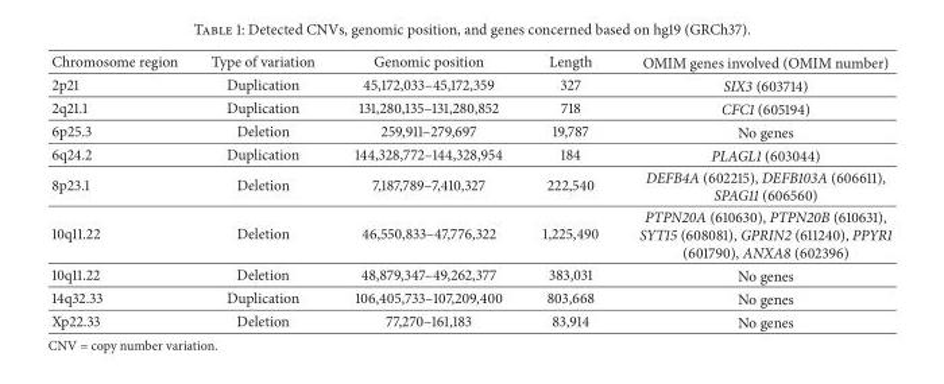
<table><thead><tr><td>Chromosome region</td><td>Type of variation</td><td>Genomic position</td><td>Length</td><td>OMIM genes involved (OMIM number)</td></tr></thead><tbody><tr><td>2p21</td><td>Duplication</td><td>45,172,033–45,172,359</td><td>327</td><td>SIX3 (603714)</td></tr><tr><td>2q21.1</td><td>Duplication</td><td>131,280,135–131,280,852</td><td>718</td><td>CFC1 (605194)</td></tr><tr><td>6p25.3</td><td>Deletion</td><td>259,911–279,697</td><td>19,787</td><td>No genes</td></tr><tr><td>6q24.2</td><td>Duplication</td><td>144,328,772–144,328,954</td><td>184</td><td>PLAGL1 (603044)</td></tr><tr><td>8p23.1</td><td>Deletion</td><td>7,187,789–7,410,327</td><td>222,540</td><td>DEFB4A (602215), DEFB103A (606611), SPAG11 (606560)</td></tr><tr><td>10q11.22</td><td>Deletion</td><td>46,550,833–47,776,322</td><td>1,225,490</td><td>PTPN20A (610630), PTPN20B (610631), SYT15 (608081), GPRIN2 (611240), PPYR1 (601790), ANXA8 (602396)</td></tr><tr><td>10q11.22</td><td>Deletion</td><td>48,879,347–49,262,377</td><td>383,031</td><td>No genes</td></tr><tr><td>14q32.33</td><td>Duplication</td><td>106,405,733–107,209,400</td><td>803,668</td><td>No genes</td></tr><tr><td>Xp22.33</td><td>Deletion</td><td>77,270–161,183</td><td>83,914</td><td>No genes</td></tr></tbody></table>